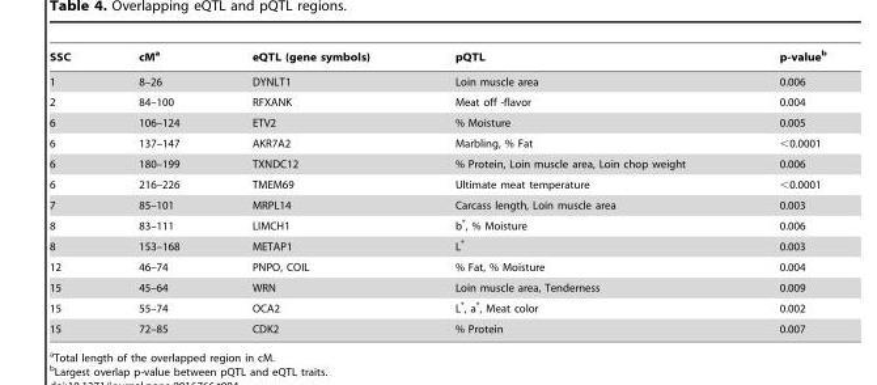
<table><thead><tr><td>SSC</td><td>cM<sup>a</sup></td><td>eQTL (gene symbols)</td><td>pQTL</td><td>p-value<sup>b</sup></td></tr></thead><tbody><tr><td>1</td><td>8–26</td><td>DYNLT1</td><td>Loin muscle area</td><td>0.006</td></tr><tr><td>2</td><td>84–100</td><td>RFXANK</td><td>Meat off -flavor</td><td>0.004</td></tr><tr><td>6</td><td>106–124</td><td>ETV2</td><td>% Moisture</td><td>0.005</td></tr><tr><td>6</td><td>137–147</td><td>AKR7A2</td><td>Marbling, % Fat</td><td>&lt;0.0001</td></tr><tr><td>6</td><td>180–199</td><td>TXNDC12</td><td>% Protein, Loin muscle area, Loin chop weight</td><td>0.006</td></tr><tr><td>6</td><td>216–226</td><td>TMEM69</td><td>Ultimate meat temperature</td><td>&lt;0.0001</td></tr><tr><td>7</td><td>85–101</td><td>MRPL14</td><td>Carcass length, Loin muscle area</td><td>0.003</td></tr><tr><td>8</td><td>83–111</td><td>LIMCH1</td><td>b*, % Moisture</td><td>0.006</td></tr><tr><td>8</td><td>153–168</td><td>METAP1</td><td>L*</td><td>0.003</td></tr><tr><td>12</td><td>46–74</td><td>PNPO, COIL</td><td>% Fat, % Moisture</td><td>0.004</td></tr><tr><td>15</td><td>45–64</td><td>WRN</td><td>Loin muscle area, Tenderness</td><td>0.009</td></tr><tr><td>15</td><td>55–74</td><td>OCA2</td><td>L*, a*, Meat color</td><td>0.002</td></tr><tr><td>15</td><td>72–85</td><td>CDK2</td><td>% Protein</td><td>0.007</td></tr></tbody></table>